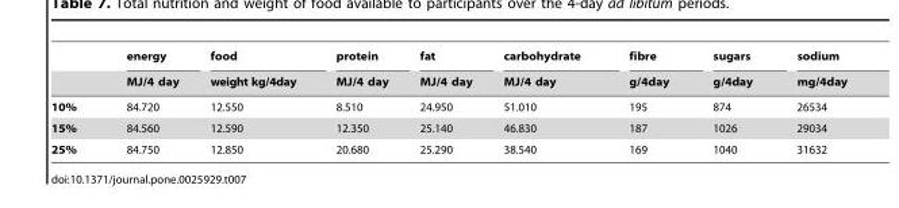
<table><thead><tr><td rowspan="2"></td><td rowspan="2">energy MJ/4 day</td><td rowspan="2">food weight kg/4day</td><td rowspan="2">protein MJ/4 day</td><td rowspan="2">fat MJ/4 day</td><td rowspan="2">carbohydrate MJ/4 day</td><td rowspan="2">fibre g/4day</td><td rowspan="2">sugars g/4day</td><td rowspan="2">sodium mg/4day</td></tr><tr></tr></thead><tbody><tr><td>10%</td><td>84.720</td><td>12.550</td><td>8.510</td><td>24.950</td><td>51.010</td><td>195</td><td>874</td><td>26534</td></tr><tr><td>15%</td><td>84.560</td><td>12.590</td><td>12.350</td><td>25.140</td><td>46.830</td><td>187</td><td>1026</td><td>29034</td></tr><tr><td>25%</td><td>84.750</td><td>12.850</td><td>20.680</td><td>25.290</td><td>38.540</td><td>169</td><td>1040</td><td>31632</td></tr></tbody></table>